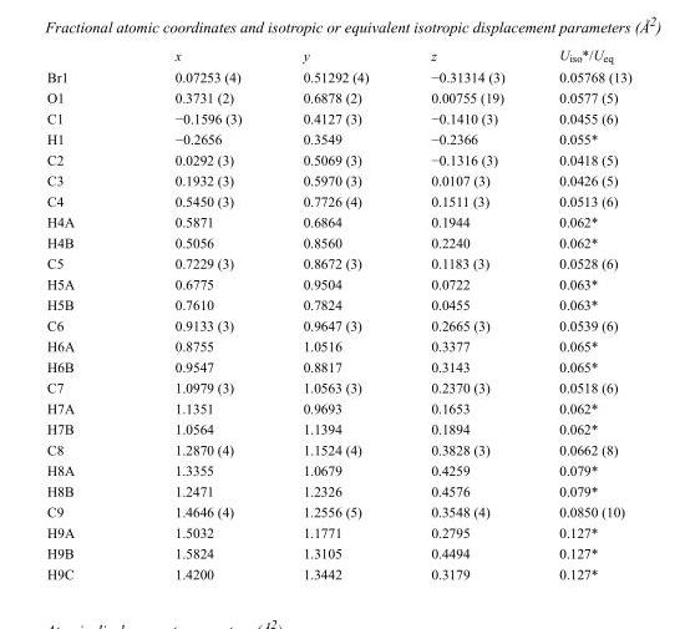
<table><thead><tr><td></td><td>x</td><td>y</td><td>z</td><td>U<sub>iso</sub>*/U<sub>eq</sub></td></tr></thead><tbody><tr><td>Br1</td><td>0.07253 (4)</td><td>0.51292 (4)</td><td>−0.31314 (3)</td><td>0.05768 (13)</td></tr><tr><td>O1</td><td>0.3731 (2)</td><td>0.6878 (2)</td><td>0.00755 (19)</td><td>0.0577 (5)</td></tr><tr><td>C1</td><td>−0.1596 (3)</td><td>0.4127 (3)</td><td>−0.1410 (3)</td><td>0.0455 (6)</td></tr><tr><td>H1</td><td>−0.2656</td><td>0.3549</td><td>−0.2366</td><td>0.055*</td></tr><tr><td>C2</td><td>0.0292 (3)</td><td>0.5069 (3)</td><td>−0.1316 (3)</td><td>0.0418 (5)</td></tr><tr><td>C3</td><td>0.1932 (3)</td><td>0.5970 (3)</td><td>0.0107 (3)</td><td>0.0426 (5)</td></tr><tr><td>C4</td><td>0.5450 (3)</td><td>0.7726 (4)</td><td>0.1511 (3)</td><td>0.0513 (6)</td></tr><tr><td>H4A</td><td>0.5871</td><td>0.6864</td><td>0.1944</td><td>0.062*</td></tr><tr><td>H4B</td><td>0.5056</td><td>0.8560</td><td>0.2240</td><td>0.062*</td></tr><tr><td>C5</td><td>0.7229 (3)</td><td>0.8672 (3)</td><td>0.1183 (3)</td><td>0.0528 (6)</td></tr><tr><td>H5A</td><td>0.6775</td><td>0.9504</td><td>0.0722</td><td>0.063*</td></tr><tr><td>H5B</td><td>0.7610</td><td>0.7824</td><td>0.0455</td><td>0.063*</td></tr><tr><td>C6</td><td>0.9133 (3)</td><td>0.9647 (3)</td><td>0.2665 (3)</td><td>0.0539 (6)</td></tr><tr><td>H6A</td><td>0.8755</td><td>1.0516</td><td>0.3377</td><td>0.065*</td></tr><tr><td>H6B</td><td>0.9547</td><td>0.8817</td><td>0.3143</td><td>0.065*</td></tr><tr><td>C7</td><td>1.0979 (3)</td><td>1.0563 (3)</td><td>0.2370 (3)</td><td>0.0518 (6)</td></tr><tr><td>H7A</td><td>1.1351</td><td>0.9693</td><td>0.1653</td><td>0.062*</td></tr><tr><td>H7B</td><td>1.0564</td><td>1.1394</td><td>0.1894</td><td>0.062*</td></tr><tr><td>C8</td><td>1.2870 (4)</td><td>1.1524 (4)</td><td>0.3828 (3)</td><td>0.0662 (8)</td></tr><tr><td>H8A</td><td>1.3355</td><td>1.0679</td><td>0.4259</td><td>0.079*</td></tr><tr><td>H8B</td><td>1.2471</td><td>1.2326</td><td>0.4576</td><td>0.079*</td></tr><tr><td>C9</td><td>1.4646 (4)</td><td>1.2556 (5)</td><td>0.3548 (4)</td><td>0.0850 (10)</td></tr><tr><td>H9A</td><td>1.5032</td><td>1.1771</td><td>0.2795</td><td>0.127*</td></tr><tr><td>H9B</td><td>1.5824</td><td>1.3105</td><td>0.4494</td><td>0.127*</td></tr><tr><td>H9C</td><td>1.4200</td><td>1.3442</td><td>0.3179</td><td>0.127*</td></tr></tbody></table>